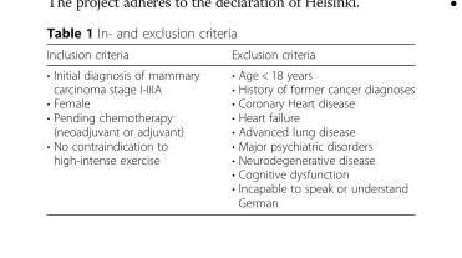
<table><thead><tr><td>Inclusion criteria</td><td>Exclusion criteria</td></tr></thead><tbody><tr><td>• Initial diagnosis of mammary carcinoma stage I-IIIA • Female • Pending chemotherapy (neoadjuvant or adjuvant) • No contraindication to high-intense exercise</td><td>• Age &lt; 18 years • History of former cancer diagnoses • Coronary Heart disease • Heart failure • Advanced lung disease • Major psychiatric disorders • Neurodegenerative disease • Cognitive dysfunction • Incapable to speak or understand German</td></tr></tbody></table>